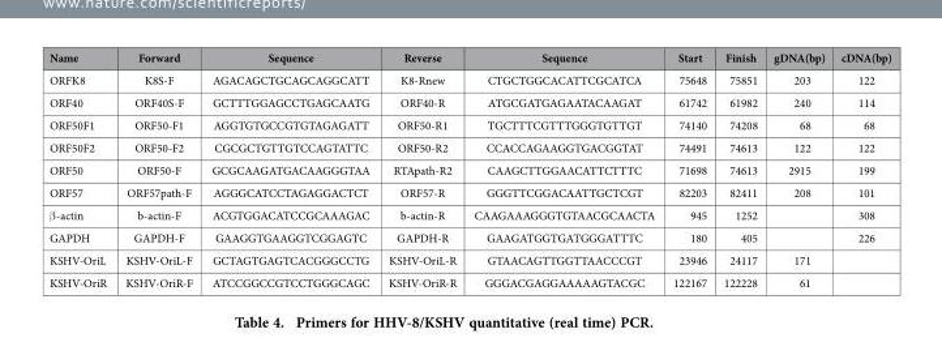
<table><thead><tr><td>Name</td><td>Forward</td><td>Sequence</td><td>Reverse</td><td>Sequence</td><td>Start</td><td>Finish</td><td>gDNA(bp)</td><td>cDNA(bp)</td></tr></thead><tbody><tr><td>ORFK8</td><td>K8S-F</td><td>AGACAGCTGCAGCAGGCATT</td><td>K8-Rnew</td><td>CTGCTGGCACATTCGCATCA</td><td>75648</td><td>75851</td><td>203</td><td>122</td></tr><tr><td>ORF40</td><td>ORF40S-F</td><td>GCTTTGGAGCCTGAGCAATG</td><td>ORF40-R</td><td>ATGCGATGAGAATACAAGAT</td><td>61742</td><td>61982</td><td>240</td><td>114</td></tr><tr><td>ORF50F1</td><td>ORF50-F1</td><td>AGGTGTGCCGTGTAGAGATT</td><td>ORF50-R1</td><td>TGCTTTCGTTTGGGTGTTGT</td><td>74140</td><td>74208</td><td>68</td><td>68</td></tr><tr><td>ORF50F2</td><td>ORF50-F2</td><td>CGCGCTGTTGTCCAGTATTC</td><td>ORF50-R2</td><td>CCACCAGAAGGTGACGGTAT</td><td>74491</td><td>74613</td><td>122</td><td>122</td></tr><tr><td>ORF50</td><td>ORF50-F</td><td>GCGCAAGATGACAAGGGTAA</td><td>RTApath-R2</td><td>CAAGCTTGGAACATTCTTTC</td><td>71698</td><td>74613</td><td>2915</td><td>199</td></tr><tr><td>ORF57</td><td>ORF57path-F</td><td>AGGGCATCCTAGAGGACTCT</td><td>ORF57-R</td><td>GGGTTCGGACAATTGCTCGT</td><td>82203</td><td>82411</td><td>208</td><td>101</td></tr><tr><td>β -actin</td><td>b-actin-F</td><td>ACGTGGACATCCGCAAAGAC</td><td>b-actin-R</td><td>CAAGAAAGGGTGTAACGCAACTA</td><td>945</td><td>1252</td><td></td><td>308</td></tr><tr><td>GAPDH</td><td>GAPDH-F</td><td>GAAGGTGAAGGTCGGAGTC</td><td>GAPDH-R</td><td>GAAGATGGTGATGGGATTTC</td><td>180</td><td>405</td><td></td><td>226</td></tr><tr><td>KSHV-OriL</td><td>KSHV-OriL-F</td><td>GCTAGTGAGTCACGGGCCTG</td><td>KSHV-OriL-R</td><td>GTAACAGTTGGTTAACCCGT</td><td>23946</td><td>24117</td><td>171</td><td></td></tr><tr><td>KSHV-OriR</td><td>KSHV-OriR-F</td><td>ATCCGGCCGTCCTGGGCAGC</td><td>KSHV-OriR-R</td><td>GGGACGAGGAAAAAGTACGC</td><td>122167</td><td>122228</td><td>61</td><td></td></tr></tbody></table>